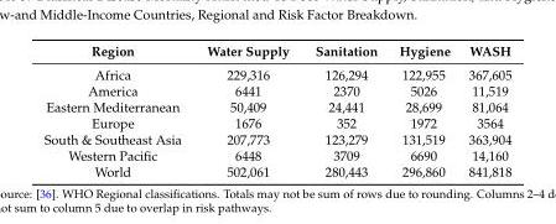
<table><thead><tr><td>Region</td><td>Water Supply</td><td>Sanitation</td><td>Hygiene</td><td>WASH</td></tr></thead><tbody><tr><td>Africa</td><td>229,316</td><td>126,294</td><td>122,955</td><td>367,605</td></tr><tr><td>America</td><td>6441</td><td>2370</td><td>5026</td><td>11,519</td></tr><tr><td>Eastern Mediterranean</td><td>50,409</td><td>24,441</td><td>28,699</td><td>81,064</td></tr><tr><td>Europe</td><td>1676</td><td>352</td><td>1972</td><td>3564</td></tr><tr><td>South &amp; Southeast Asia</td><td>207,773</td><td>123,279</td><td>131,519</td><td>363,904</td></tr><tr><td>Western Pacific</td><td>6448</td><td>3709</td><td>6690</td><td>14,160</td></tr><tr><td>World</td><td>502,061</td><td>280,443</td><td>296,860</td><td>841,818</td></tr></tbody></table>